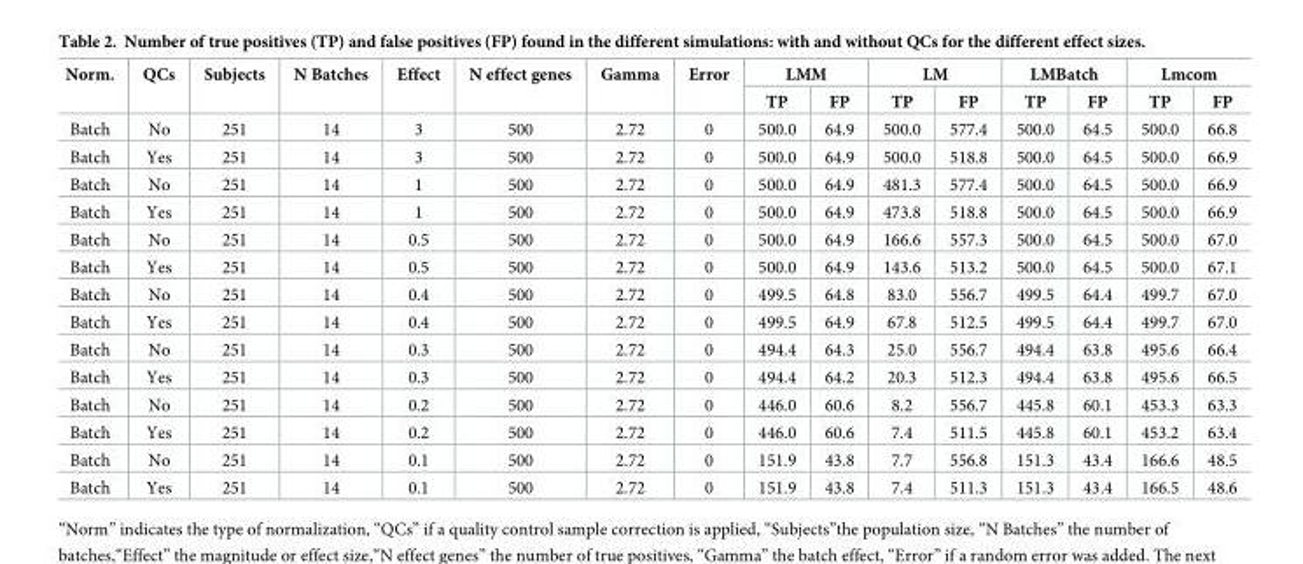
<table><thead><tr><td rowspan="2">Norm.</td><td rowspan="2">QCs</td><td rowspan="2">Subjects</td><td rowspan="2">N Batches</td><td rowspan="2">Effect</td><td rowspan="2">N effect genes</td><td rowspan="2">Gamma</td><td rowspan="2">Error</td><td colspan="2">LMM</td><td colspan="2">LM</td><td colspan="2">LMBatch</td><td colspan="2">Lmcom</td></tr><tr><td>TP</td><td>FP</td><td>TP</td><td>FP</td><td>TP</td><td>FP</td><td>TP</td><td>FP</td></tr></thead><tbody><tr><td>Batch</td><td>No</td><td>251</td><td>14</td><td>3</td><td>500</td><td>2.72</td><td>0</td><td>500.0</td><td>64.9</td><td>500.0</td><td>577.4</td><td>500.0</td><td>64.5</td><td>500.0</td><td>66.8</td></tr><tr><td>Batch</td><td>Yes</td><td>251</td><td>14</td><td>3</td><td>500</td><td>2.72</td><td>0</td><td>500.0</td><td>64.9</td><td>500.0</td><td>518.8</td><td>500.0</td><td>64.5</td><td>500.0</td><td>66.9</td></tr><tr><td>Batch</td><td>No</td><td>251</td><td>14</td><td>1</td><td>500</td><td>2.72</td><td>0</td><td>500.0</td><td>64.9</td><td>481.3</td><td>577.4</td><td>500.0</td><td>64.5</td><td>500.0</td><td>66.9</td></tr><tr><td>Batch</td><td>Yes</td><td>251</td><td>14</td><td>1</td><td>500</td><td>2.72</td><td>0</td><td>500.0</td><td>64.9</td><td>473.8</td><td>518.8</td><td>500.0</td><td>64.5</td><td>500.0</td><td>66.9</td></tr><tr><td>Batch</td><td>No</td><td>251</td><td>14</td><td>0.5</td><td>500</td><td>2.72</td><td>0</td><td>500.0</td><td>64.9</td><td>166.6</td><td>557.3</td><td>500.0</td><td>64.5</td><td>500.0</td><td>67.0</td></tr><tr><td>Batch</td><td>Yes</td><td>251</td><td>14</td><td>0.5</td><td>500</td><td>2.72</td><td>0</td><td>500.0</td><td>64.9</td><td>143.6</td><td>513.2</td><td>500.0</td><td>64.5</td><td>500.0</td><td>67.1</td></tr><tr><td>Batch</td><td>No</td><td>251</td><td>14</td><td>0.4</td><td>500</td><td>2.72</td><td>0</td><td>499.5</td><td>64.8</td><td>83.0</td><td>556.7</td><td>499.5</td><td>64.4</td><td>499.7</td><td>67.0</td></tr><tr><td>Batch</td><td>Yes</td><td>251</td><td>14</td><td>0.4</td><td>500</td><td>2.72</td><td>0</td><td>499.5</td><td>64.9</td><td>67.8</td><td>512.5</td><td>499.5</td><td>64.4</td><td>499.7</td><td>67.0</td></tr><tr><td>Batch</td><td>No</td><td>251</td><td>14</td><td>0.3</td><td>500</td><td>2.72</td><td>0</td><td>494.4</td><td>64.3</td><td>25.0</td><td>556.7</td><td>494.4</td><td>63.8</td><td>495.6</td><td>66.4</td></tr><tr><td>Batch</td><td>Yes</td><td>251</td><td>14</td><td>0.3</td><td>500</td><td>2.72</td><td>0</td><td>494.4</td><td>64.2</td><td>20.3</td><td>512.3</td><td>494.4</td><td>63.8</td><td>495.6</td><td>66.5</td></tr><tr><td>Batch</td><td>No</td><td>251</td><td>14</td><td>0.2</td><td>500</td><td>2.72</td><td>0</td><td>446.0</td><td>60.6</td><td>8.2</td><td>556.7</td><td>445.8</td><td>60.1</td><td>453.3</td><td>63.3</td></tr><tr><td>Batch</td><td>Yes</td><td>251</td><td>14</td><td>0.2</td><td>500</td><td>2.72</td><td>0</td><td>446.0</td><td>60.6</td><td>7.4</td><td>511.5</td><td>445.8</td><td>60.1</td><td>453.2</td><td>63.4</td></tr><tr><td>Batch</td><td>No</td><td>251</td><td>14</td><td>0.1</td><td>500</td><td>2.72</td><td>0</td><td>151.9</td><td>43.8</td><td>7.7</td><td>556.8</td><td>151.3</td><td>43.4</td><td>166.6</td><td>48.5</td></tr><tr><td>Batch</td><td>Yes</td><td>251</td><td>14</td><td>0.1</td><td>500</td><td>2.72</td><td>0</td><td>151.9</td><td>43.8</td><td>7.4</td><td>511.3</td><td>151.3</td><td>43.4</td><td>166.5</td><td>48.6</td></tr></tbody></table>